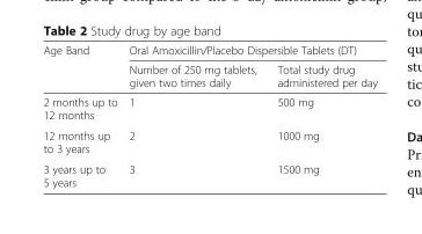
<table><thead><tr><td rowspan="2">Age Band</td><td colspan="2">Oral Amoxicillin/Placebo Dispersible Tablets (DT)</td></tr><tr><td>Number of 250 mg tablets, given two times daily</td><td>Total study drug administered per day</td></tr></thead><tbody><tr><td>2 months up to 12 months</td><td>1</td><td>500 mg</td></tr><tr><td>12 months up to 3 years</td><td>2</td><td>1000 mg</td></tr><tr><td>3 years up to 5 years</td><td>3</td><td>1500 mg</td></tr></tbody></table>